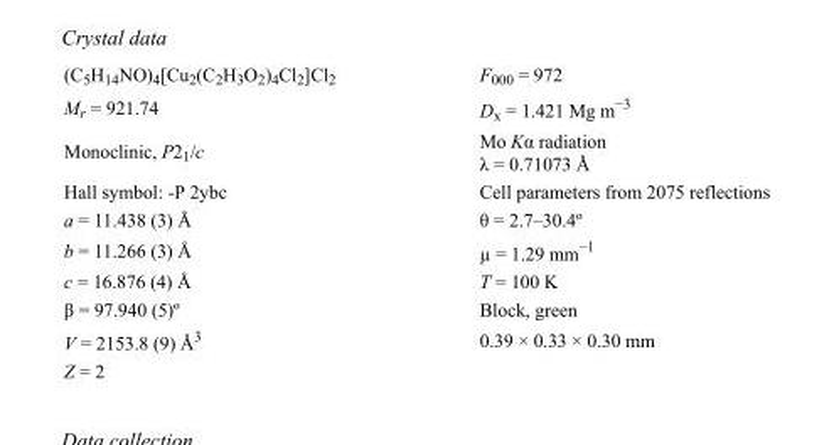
<table><tbody><tr><td>(C<sub>5</sub>H<sub>14</sub>NO)<sub>4</sub>[Cu<sub>2</sub>(C<sub>2</sub>H<sub>3</sub>O<sub>2</sub>)<sub>4</sub>Cl<sub>2</sub>]Cl<sub>2</sub></td><td>F000 = 972</td></tr><tr><td>M<sub>r</sub> = 921.74</td><td>D<sub>x</sub> = 1.421 Mg m<sup>−3</sup></td></tr><tr><td>Monoclinic, P2<sub>1</sub>/c</td><td>Mo Kα radiation λ = 0.71073 Å</td></tr><tr><td>Hall symbol: -P 2ybc</td><td>Cell parameters from 2075 reflections</td></tr><tr><td>a = 11.438 (3) Å</td><td>θ = 2.7–30.4º</td></tr><tr><td>b = 11.266 (3) Å</td><td>µ = 1.29 mm<sup>−1</sup></td></tr><tr><td>c = 16.876 (4) Å</td><td>T = 100 K</td></tr><tr><td>β = 97.940 (5)º</td><td>Block, green</td></tr><tr><td>V = 2153.8 (9) Å<sup>3</sup></td><td>0.39 × 0.33 × 0.30 mm</td></tr><tr><td>Z = 2</td><td></td></tr></tbody></table>